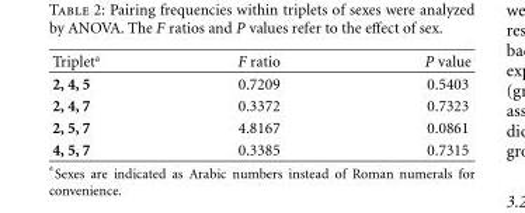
<table><thead><tr><td>Triplet<sup>a</sup></td><td>F ratio</td><td>P value</td></tr></thead><tbody><tr><td>2, 4, 5</td><td>0.7209</td><td>0.5403</td></tr><tr><td>2, 4, 7</td><td>0.3372</td><td>0.7323</td></tr><tr><td>2, 5, 7</td><td>4.8167</td><td>0.0861</td></tr><tr><td>4, 5, 7</td><td>0.3385</td><td>0.7315</td></tr></tbody></table>